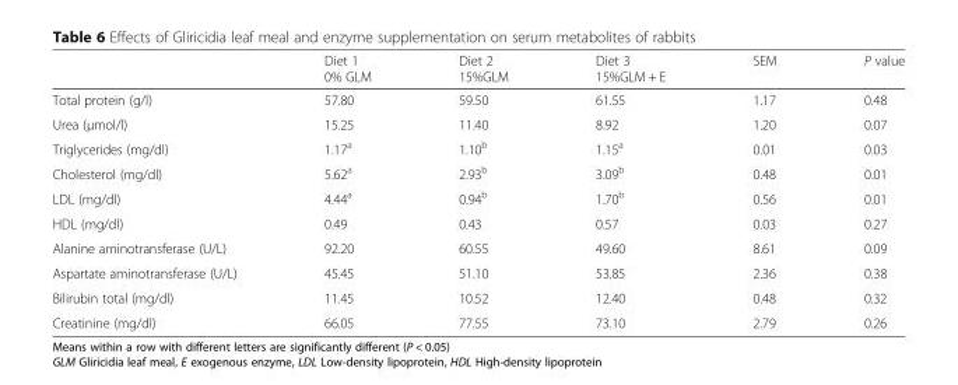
<table><thead><tr><td></td><td>Diet 1 0% GLM</td><td>Diet 2 15%GLM</td><td>Diet 3 15%GLM + E</td><td>SEM</td><td>P value</td></tr></thead><tbody><tr><td>Total protein (g/l)</td><td>57.80</td><td>59.50</td><td>61.55</td><td>1.17</td><td>0.48</td></tr><tr><td>Urea (μmol/l)</td><td>15.25</td><td>11.40</td><td>8.92</td><td>1.20</td><td>0.07</td></tr><tr><td>Triglycerides (mg/dl)</td><td>1.17<sup>a</sup></td><td>1.10<sup>b</sup></td><td>1.15<sup>a</sup></td><td>0.01</td><td>0.03</td></tr><tr><td>Cholesterol (mg/dl)</td><td>5.62<sup>a</sup></td><td>2.93<sup>b</sup></td><td>3.09<sup>b</sup></td><td>0.48</td><td>0.01</td></tr><tr><td>LDL (mg/dl)</td><td>4.44<sup>a</sup></td><td>0.94<sup>b</sup></td><td>1.70<sup>b</sup></td><td>0.56</td><td>0.01</td></tr><tr><td>HDL (mg/dl)</td><td>0.49</td><td>0.43</td><td>0.57</td><td>0.03</td><td>0.27</td></tr><tr><td>Alanine aminotransferase (U/L)</td><td>92.20</td><td>60.55</td><td>49.60</td><td>8.61</td><td>0.09</td></tr><tr><td>Aspartate aminotransferase (U/L)</td><td>45.45</td><td>51.10</td><td>53.85</td><td>2.36</td><td>0.38</td></tr><tr><td>Bilirubin total (mg/dl)</td><td>11.45</td><td>10.52</td><td>12.40</td><td>0.48</td><td>0.32</td></tr><tr><td>Creatinine (mg/dl)</td><td>66.05</td><td>77.55</td><td>73.10</td><td>2.79</td><td>0.26</td></tr></tbody></table>